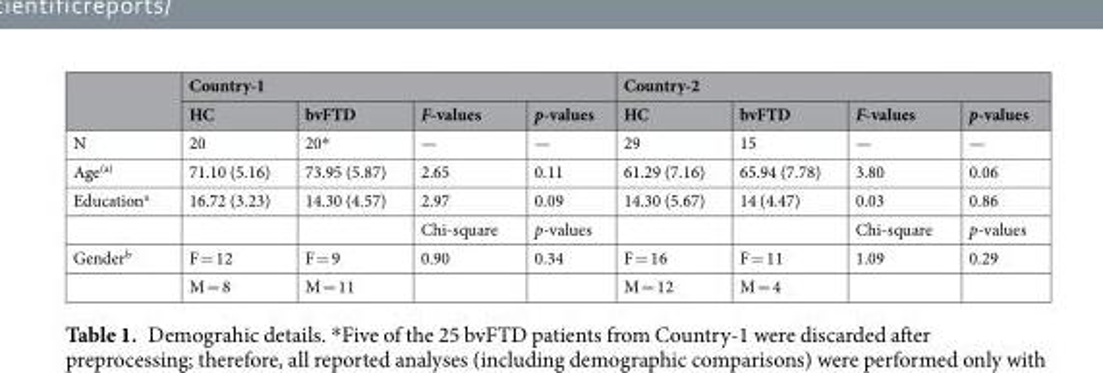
<table><thead><tr><td rowspan="2"></td><td colspan="4">Country-1</td><td colspan="4">Country-2</td></tr><tr><td>HC</td><td>bvFTD</td><td>F-values</td><td>p-values</td><td>HC</td><td>bvFTD</td><td>F-values</td><td>p-values</td></tr></thead><tbody><tr><td>N</td><td>20</td><td>20*</td><td>—</td><td>—</td><td>29</td><td>15</td><td>—</td><td>—</td></tr><tr><td>Age<sup>(a)</sup></td><td>71.10 (5.16)</td><td>73.95 (5.87)</td><td>2.65</td><td>0.11</td><td>61.29 (7.16)</td><td>65.94 (7.78)</td><td>3.80</td><td>0.06</td></tr><tr><td rowspan="2">Education<sup>a</sup></td><td>16.72 (3.23)</td><td>14.30 (4.57)</td><td>2.97</td><td>0.09</td><td>14.30 (5.67)</td><td>14 (4.47)</td><td>0.03</td><td>0.86</td></tr><tr><td></td><td></td><td>Chi-square</td><td>p-values</td><td></td><td></td><td>Chi-square</td><td>p-values</td></tr><tr><td rowspan="2">Gender<sup>b</sup></td><td>F = 12</td><td>F = 9</td><td>0.90</td><td>0.34</td><td>F = 16</td><td>F = 11</td><td>1.09</td><td>0.29</td></tr><tr><td>M = 8</td><td>M = 11</td><td></td><td></td><td>M = 12</td><td>M = 4</td><td></td><td></td></tr></tbody></table>